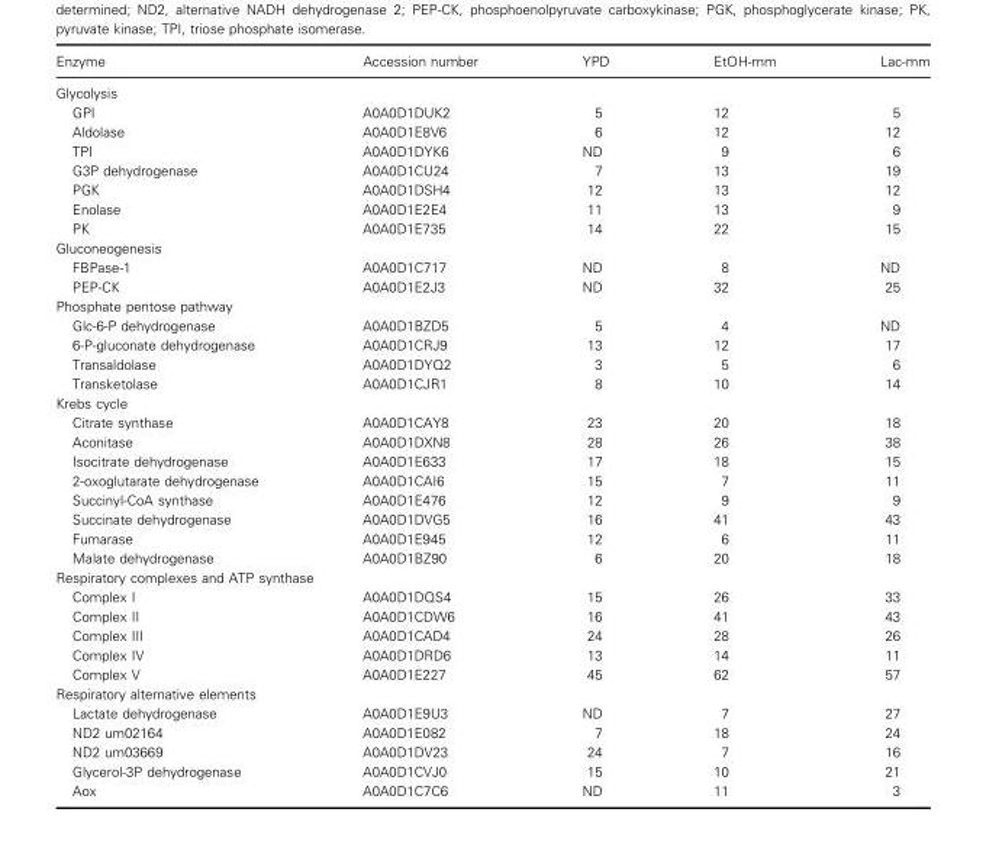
<table><thead><tr><td>Enzyme</td><td>Accession number</td><td>YPD</td><td>EtOH-mm</td><td>Lac-mm</td></tr></thead><tbody><tr><td colspan="5">Glycolysis</td></tr><tr><td>GPI</td><td>A0A0D1DUK2</td><td>5</td><td>12</td><td>5</td></tr><tr><td>Aldolase</td><td>A0A0D1E8V6</td><td>6</td><td>12</td><td>12</td></tr><tr><td>TPI</td><td>A0A0D1DYK6</td><td>ND</td><td>9</td><td>6</td></tr><tr><td>G3P dehydrogenase</td><td>A0A0D1CU24</td><td>7</td><td>13</td><td>19</td></tr><tr><td>PGK</td><td>A0A0D1DSH4</td><td>12</td><td>13</td><td>12</td></tr><tr><td>Enolase</td><td>A0A0D1E2E4</td><td>11</td><td>13</td><td>9</td></tr><tr><td>PK</td><td>A0A0D1E735</td><td>14</td><td>22</td><td>15</td></tr><tr><td colspan="5">Gluconeogenesis</td></tr><tr><td>FBPase-1</td><td>A0A0D1C717</td><td>ND</td><td>8</td><td>ND</td></tr><tr><td>PEP-CK</td><td>A0A0D1E2J3</td><td>ND</td><td>32</td><td>25</td></tr><tr><td colspan="5">Phosphate pentose pathway</td></tr><tr><td>Glc-6-P dehydrogenase</td><td>A0A0D1BZD5</td><td>5</td><td>4</td><td>ND</td></tr><tr><td>6-P-gluconate dehydrogenase</td><td>A0A0D1CRJ9</td><td>13</td><td>12</td><td>17</td></tr><tr><td>Transaldolase</td><td>A0A0D1DYQ2</td><td>3</td><td>5</td><td>6</td></tr><tr><td>Transketolase</td><td>A0A0D1CJR1</td><td>8</td><td>10</td><td>14</td></tr><tr><td colspan="5">Krebs cycle</td></tr><tr><td>Citrate synthase</td><td>A0A0D1CAY8</td><td>23</td><td>20</td><td>18</td></tr><tr><td>Aconitase</td><td>A0A0D1DXN8</td><td>28</td><td>26</td><td>38</td></tr><tr><td>Isocitrate dehydrogenase</td><td>A0A0D1E633</td><td>17</td><td>18</td><td>15</td></tr><tr><td>2-oxoglutarate dehydrogenase</td><td>A0A0D1CAI6</td><td>15</td><td>7</td><td>11</td></tr><tr><td>Succinyl-CoA synthase</td><td>A0A0D1E476</td><td>12</td><td>9</td><td>9</td></tr><tr><td>Succinate dehydrogenase</td><td>A0A0D1DVG5</td><td>16</td><td>41</td><td>43</td></tr><tr><td>Fumarase</td><td>A0A0D1E945</td><td>12</td><td>6</td><td>11</td></tr><tr><td>Malate dehydrogenase</td><td>A0A0D1BZ90</td><td>6</td><td>20</td><td>18</td></tr><tr><td colspan="5">Respiratory complexes and ATP synthase</td></tr><tr><td>Complex I</td><td>A0A0D1DQS4</td><td>15</td><td>26</td><td>33</td></tr><tr><td>Complex II</td><td>A0A0D1CDW6</td><td>16</td><td>41</td><td>43</td></tr><tr><td>Complex III</td><td>A0A0D1CAD4</td><td>24</td><td>28</td><td>26</td></tr><tr><td>Complex IV</td><td>A0A0D1DRD6</td><td>13</td><td>14</td><td>11</td></tr><tr><td>Complex V</td><td>A0A0D1E227</td><td>45</td><td>62</td><td>57</td></tr><tr><td colspan="5">Respiratory alternative elements</td></tr><tr><td>Lactate dehydrogenase</td><td>A0A0D1E9U3</td><td>ND</td><td>7</td><td>27</td></tr><tr><td>ND2 um02164</td><td>A0A0D1E082</td><td>7</td><td>18</td><td>24</td></tr><tr><td>ND2 um03669</td><td>A0A0D1DV23</td><td>24</td><td>7</td><td>16</td></tr><tr><td>Glycerol-3P dehydrogenase</td><td>A0A0D1CVJ0</td><td>15</td><td>10</td><td>21</td></tr><tr><td>Aox</td><td>A0A0D1C7C6</td><td>ND</td><td>11</td><td>3</td></tr></tbody></table>